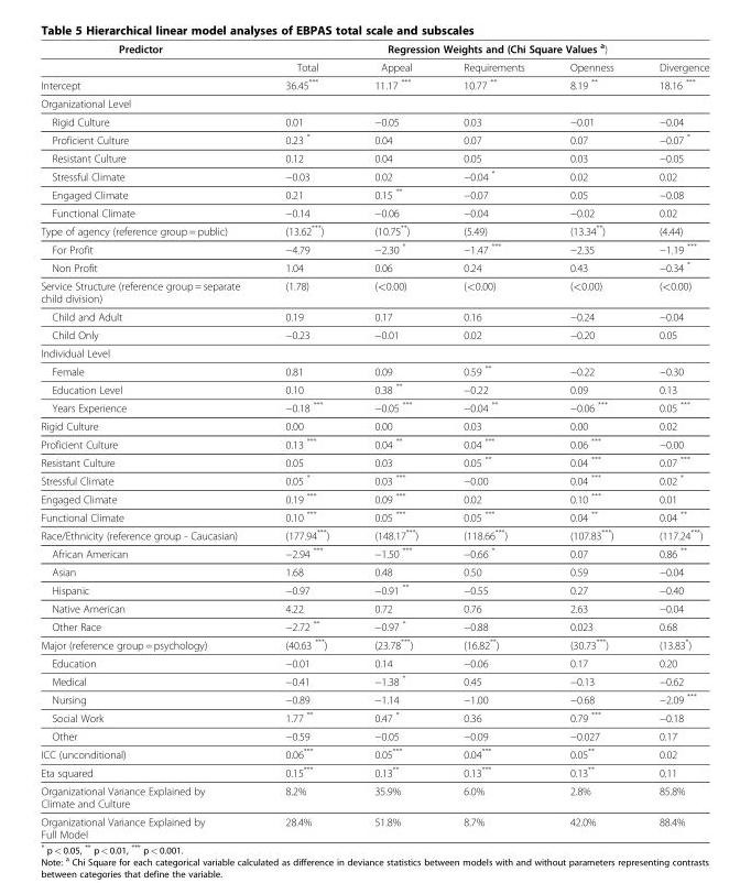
<table><thead><tr><td rowspan="2">Predictor</td><td colspan="5">Regression Weights and (Chi Square Values <sup>a</sup>)</td></tr><tr><td>Total</td><td>Appeal</td><td>Requirements</td><td>Openness</td><td>Divergence</td></tr></thead><tbody><tr><td>Intercept</td><td>36.45***</td><td>11.17 ***</td><td>10.77 **</td><td>8.19 **</td><td>18.16 ***</td></tr><tr><td colspan="6">Organizational Level</td></tr><tr><td>Rigid Culture</td><td>0.01</td><td>−0.05</td><td>0.03</td><td>−0.01</td><td>−0.04</td></tr><tr><td>Proficient Culture</td><td>0.23 *</td><td>0.04</td><td>0.07</td><td>0.07</td><td>−0.07 *</td></tr><tr><td>Resistant Culture</td><td>0.12</td><td>0.04</td><td>0.05</td><td>0.03</td><td>−0.05</td></tr><tr><td>Stressful Climate</td><td>−0.03</td><td>0.02</td><td>−0.04 *</td><td>0.02</td><td>0.02</td></tr><tr><td>Engaged Climate</td><td>0.21</td><td>0.15 **</td><td>−0.07</td><td>0.05</td><td>−0.08</td></tr><tr><td>Functional Climate</td><td>−0.14</td><td>−0.06</td><td>−0.04</td><td>−0.02</td><td>0.02</td></tr><tr><td>Type of agency (reference group = public)</td><td>(13.62***)</td><td>(10.75**)</td><td>(5.49)</td><td>(13.34**)</td><td>(4.44)</td></tr><tr><td>For Profit</td><td>−4.79</td><td>−2.30 *</td><td>−1.47 ***</td><td>−2.35</td><td>−1.19 ***</td></tr><tr><td>Non Profit</td><td>1.04</td><td>0.06</td><td>0.24</td><td>0.43</td><td>−0.34 *</td></tr><tr><td>Service Structure (reference group = separate child division)</td><td>(1.78)</td><td>(&lt;0.00)</td><td>(&lt;0.00)</td><td>(&lt;0.00)</td><td>(&lt;0.00)</td></tr><tr><td>Child and Adult</td><td>0.19</td><td>0.17</td><td>0.16</td><td>−0.24</td><td>−0.04</td></tr><tr><td>Child Only</td><td>−0.23</td><td>−0.01</td><td>0.02</td><td>−0.20</td><td>0.05</td></tr><tr><td colspan="6">Individual Level</td></tr><tr><td>Female</td><td>0.81</td><td>0.09</td><td>0.59 **</td><td>−0.22</td><td>−0.30</td></tr><tr><td>Education Level</td><td>0.10</td><td>0.38 **</td><td>−0.22</td><td>0.09</td><td>0.13</td></tr><tr><td>Years Experience</td><td>−0.18 ***</td><td>−0.05 ***</td><td>−0.04 **</td><td>−0.06 ***</td><td>0.05 ***</td></tr><tr><td>Rigid Culture</td><td>0.00</td><td>0.00</td><td>0.03</td><td>0.00</td><td>0.02</td></tr><tr><td>Proficient Culture</td><td>0.13 ***</td><td>0.04 **</td><td>0.04 ***</td><td>0.06 ***</td><td>−0.00</td></tr><tr><td>Resistant Culture</td><td>0.05</td><td>0.03</td><td>0.05 **</td><td>0.04 ***</td><td>0.07 ***</td></tr><tr><td>Stressful Climate</td><td>0.05 *</td><td>0.03 ***</td><td>−0.00</td><td>0.04 ***</td><td>0.02 *</td></tr><tr><td>Engaged Climate</td><td>0.19 ***</td><td>0.09 ***</td><td>0.02</td><td>0.10 ***</td><td>0.01</td></tr><tr><td>Functional Climate</td><td>0.10 ***</td><td>0.05 ***</td><td>0.05 ***</td><td>0.04 **</td><td>0.04 **</td></tr><tr><td>Race/Ethnicity (reference group - Caucasian)</td><td>(177.94***)</td><td>(148.17***)</td><td>(118.66***)</td><td>(107.83***)</td><td>(117.24***)</td></tr><tr><td>African American</td><td>−2.94 ***</td><td>−1.50 ***</td><td>−0.66 *</td><td>0.07</td><td>0.86 **</td></tr><tr><td>Asian</td><td>1.68</td><td>0.48</td><td>0.50</td><td>0.59</td><td>−0.04</td></tr><tr><td>Hispanic</td><td>−0.97</td><td>−0.91 **</td><td>−0.55</td><td>0.27</td><td>−0.40</td></tr><tr><td>Native American</td><td>4.22</td><td>0.72</td><td>0.76</td><td>2.63</td><td>−0.04</td></tr><tr><td>Other Race</td><td>−2.72 **</td><td>−0.97 *</td><td>−0.88</td><td>0.023</td><td>0.68</td></tr><tr><td>Major (reference group = psychology)</td><td>(40.63 ***)</td><td>(23.78***)</td><td>(16.82**)</td><td>(30.73***)</td><td>(13.83*)</td></tr><tr><td>Education</td><td>−0.01</td><td>0.14</td><td>−0.06</td><td>0.17</td><td>0.20</td></tr><tr><td>Medical</td><td>−0.41</td><td>−1.38 *</td><td>0.45</td><td>−0.13</td><td>−0.62</td></tr><tr><td>Nursing</td><td>−0.89</td><td>−1.14</td><td>−1.00</td><td>−0.68</td><td>−2.09 ***</td></tr><tr><td>Social Work</td><td>1.77 **</td><td>0.47 *</td><td>0.36</td><td>0.79 ***</td><td>−0.18</td></tr><tr><td>Other</td><td>−0.59</td><td>−0.05</td><td>−0.09</td><td>−0.027</td><td>0.17</td></tr><tr><td>ICC (unconditional)</td><td>0.06***</td><td>0.05***</td><td>0.04***</td><td>0.05**</td><td>0.02</td></tr><tr><td>Eta squared</td><td>0.15***</td><td>0.13**</td><td>0.13***</td><td>0.13**</td><td>0.11</td></tr><tr><td>Organizational Variance Explained by Climate and Culture</td><td>8.2%</td><td>35.9%</td><td>6.0%</td><td>2.8%</td><td>85.8%</td></tr><tr><td>Organizational Variance Explained by Full Model</td><td>28.4%</td><td>51.8%</td><td>8.7%</td><td>42.0%</td><td>88.4%</td></tr></tbody></table>